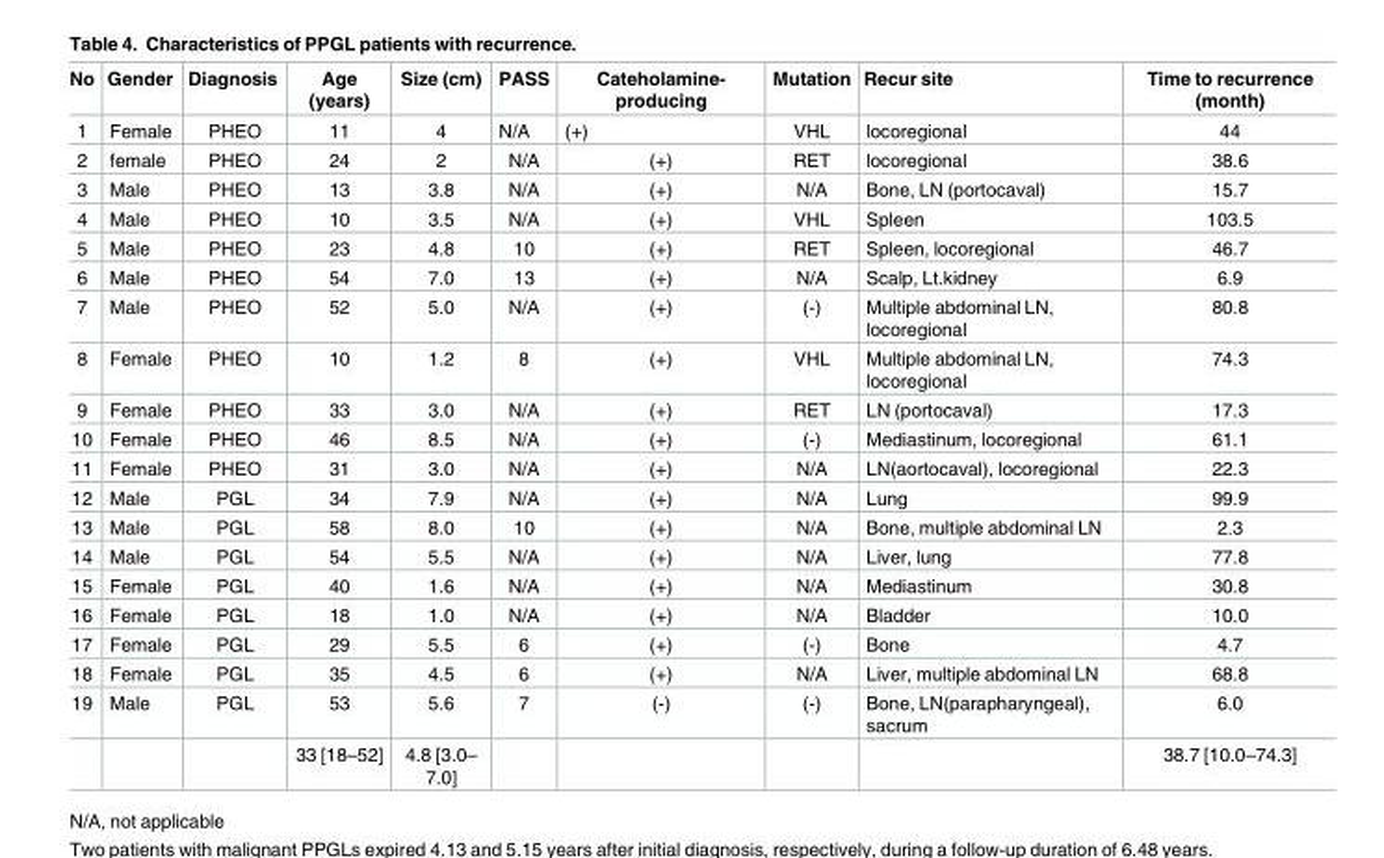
<table><thead><tr><td>No</td><td>Gender</td><td>Diagnosis</td><td>Age (years)</td><td>Size (cm)</td><td>PASS</td><td>Cateholamine- producing</td><td>Mutation</td><td>Recur site</td><td>Time to recurrence (month)</td></tr></thead><tbody><tr><td>1</td><td>Female</td><td>PHEO</td><td>11</td><td>4</td><td>N/A</td><td>(+)</td><td>VHL</td><td>locoregional</td><td>44</td></tr><tr><td>2</td><td>female</td><td>PHEO</td><td>24</td><td>2</td><td>N/A</td><td>(+)</td><td>RET</td><td>locoregional</td><td>38.6</td></tr><tr><td>3</td><td>Male</td><td>PHEO</td><td>13</td><td>3.8</td><td>N/A</td><td>(+)</td><td>N/A</td><td>Bone, LN (portocaval)</td><td>15.7</td></tr><tr><td>4</td><td>Male</td><td>PHEO</td><td>10</td><td>3.5</td><td>N/A</td><td>(+)</td><td>VHL</td><td>Spleen</td><td>103.5</td></tr><tr><td>5</td><td>Male</td><td>PHEO</td><td>23</td><td>4.8</td><td>10</td><td>(+)</td><td>RET</td><td>Spleen, locoregional</td><td>46.7</td></tr><tr><td>6</td><td>Male</td><td>PHEO</td><td>54</td><td>7.0</td><td>13</td><td>(+)</td><td>N/A</td><td>Scalp, Lt.kidney</td><td>6.9</td></tr><tr><td>7</td><td>Male</td><td>PHEO</td><td>52</td><td>5.0</td><td>N/A</td><td>(+)</td><td>(-)</td><td>Multiple abdominal LN, locoregional</td><td>80.8</td></tr><tr><td>8</td><td>Female</td><td>PHEO</td><td>10</td><td>1.2</td><td>8</td><td>(+)</td><td>VHL</td><td>Multiple abdominal LN, locoregional</td><td>74.3</td></tr><tr><td>9</td><td>Female</td><td>PHEO</td><td>33</td><td>3.0</td><td>N/A</td><td>(+)</td><td>RET</td><td>LN (portocaval)</td><td>17.3</td></tr><tr><td>10</td><td>Female</td><td>PHEO</td><td>46</td><td>8.5</td><td>N/A</td><td>(+)</td><td>(-)</td><td>Mediastinum, locoregional</td><td>61.1</td></tr><tr><td>11</td><td>Female</td><td>PHEO</td><td>31</td><td>3.0</td><td>N/A</td><td>(+)</td><td>N/A</td><td>LN(aortocaval), locoregional</td><td>22.3</td></tr><tr><td>12</td><td>Male</td><td>PGL</td><td>34</td><td>7.9</td><td>N/A</td><td>(+)</td><td>N/A</td><td>Lung</td><td>99.9</td></tr><tr><td>13</td><td>Male</td><td>PGL</td><td>58</td><td>8.0</td><td>10</td><td>(+)</td><td>N/A</td><td>Bone, multiple abdominal LN</td><td>2.3</td></tr><tr><td>14</td><td>Male</td><td>PGL</td><td>54</td><td>5.5</td><td>N/A</td><td>(+)</td><td>N/A</td><td>Liver, lung</td><td>77.8</td></tr><tr><td>15</td><td>Female</td><td>PGL</td><td>40</td><td>1.6</td><td>N/A</td><td>(+)</td><td>N/A</td><td>Mediastinum</td><td>30.8</td></tr><tr><td>16</td><td>Female</td><td>PGL</td><td>18</td><td>1.0</td><td>N/A</td><td>(+)</td><td>N/A</td><td>Bladder</td><td>10.0</td></tr><tr><td>17</td><td>Female</td><td>PGL</td><td>29</td><td>5.5</td><td>6</td><td>(+)</td><td>(-)</td><td>Bone</td><td>4.7</td></tr><tr><td>18</td><td>Female</td><td>PGL</td><td>35</td><td>4.5</td><td>6</td><td>(+)</td><td>N/A</td><td>Liver, multiple abdominal LN</td><td>68.8</td></tr><tr><td rowspan="2">19</td><td>Male</td><td>PGL</td><td>53</td><td>5.6</td><td>7</td><td>(-)</td><td>(-)</td><td>Bone, LN(parapharyngeal), sacrum</td><td>6.0</td></tr><tr><td></td><td></td><td>33 [18–52]</td><td>4.8 [3.0– 7.0]</td><td></td><td></td><td></td><td></td><td>38.7 [10.0–74.3]</td></tr></tbody></table>